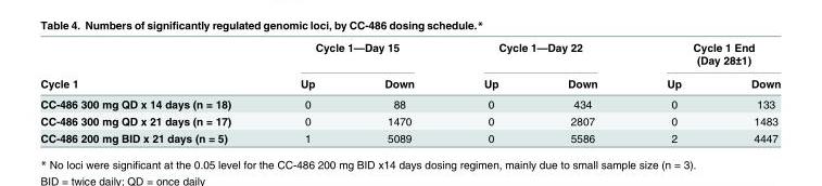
<table><thead><tr><td rowspan="2">Cycle 1</td><td colspan="2">Cycle 1—Day 15</td><td colspan="2">Cycle 1—Day 22</td><td colspan="2">Cycle 1 End (Day 28±1)</td></tr><tr><td>Up</td><td>Down</td><td>Up</td><td>Down</td><td>Up</td><td>Down</td></tr></thead><tbody><tr><td>CC-486 300 mg QD x 14 days (n = 18)</td><td>0</td><td>88</td><td>0</td><td>434</td><td>0</td><td>133</td></tr><tr><td>CC-486 300 mg QD x 21 days (n = 17)</td><td>0</td><td>1470</td><td>0</td><td>2807</td><td>0</td><td>1483</td></tr><tr><td>CC-486 200 mg BID x 21 days (n = 5)</td><td>1</td><td>5089</td><td>0</td><td>5586</td><td>2</td><td>4447</td></tr></tbody></table>